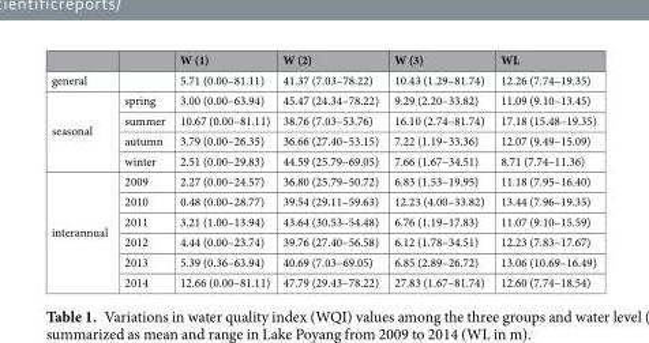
<table><thead><tr><td></td><td></td><td>W (1)</td><td>W (2)</td><td>W (3)</td><td>WL</td></tr></thead><tbody><tr><td>general</td><td></td><td>5.71 (0.00–81.11)</td><td>41.37 (7.03–78.22)</td><td>10.43 (1.29–81.74)</td><td>12.26 (7.74–19.35)</td></tr><tr><td rowspan="4">seasonal</td><td>spring</td><td>3.00 (0.00–63.94)</td><td>45.47 (24.34–78.22)</td><td>9.29 (2.20–33.82)</td><td>11.09 (9.10–13.45)</td></tr><tr><td>summer</td><td>10.67 (0.00–81.11)</td><td>38.76 (7.03–53.76)</td><td>16.10 (2.74–81.74)</td><td>17.18 (15.48–19.35)</td></tr><tr><td>autumn</td><td>3.79 (0.00–26.35)</td><td>36.66 (27.40–53.15)</td><td>7.22 (1.19–33.36)</td><td>12.07 (9.49–15.09)</td></tr><tr><td>winter</td><td>2.51 (0.00–29.83)</td><td>44.59 (25.79–69.05)</td><td>7.66 (1.67–34.51)</td><td>8.71 (7.74–11.36)</td></tr><tr><td rowspan="6">interannual</td><td>2009</td><td>2.27 (0.00–24.57)</td><td>36.80 (25.79–50.72)</td><td>6.83 (1.53–19.95)</td><td>11.18 (7.95–16.40)</td></tr><tr><td>2010</td><td>0.48 (0.00–28.77)</td><td>39.54 (29.11–59.63)</td><td>12.23 (4.00–33.82)</td><td>13.44 (7.96–19.35)</td></tr><tr><td>2011</td><td>3.21 (1.00–13.94)</td><td>43.64 (30.53–54.48)</td><td>6.76 (1.19–17.83)</td><td>11.07 (9.10–15.59)</td></tr><tr><td>2012</td><td>4.44 (0.00–23.74)</td><td>39.76 (27.40–56.58)</td><td>6.12 (1.78–34.51)</td><td>12.23 (7.83–17.67)</td></tr><tr><td>2013</td><td>5.39 (0.36–63.94)</td><td>40.69 (7.03–69.05)</td><td>6.85 (2.89–26.72)</td><td>13.06 (10.69–16.49)</td></tr><tr><td>2014</td><td>12.66 (0.00–81.11)</td><td>47.79 (29.43–78.22)</td><td>27.83 (1.67–81.74)</td><td>12.60 (7.74–18.54)</td></tr></tbody></table>